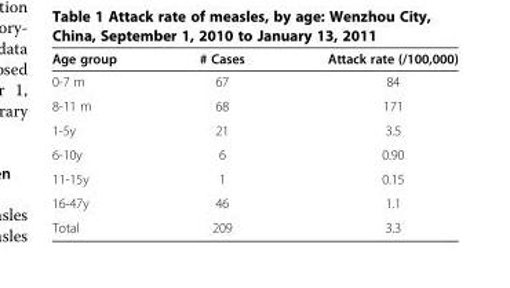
<table><thead><tr><td>Age group</td><td># Cases</td><td>Attack rate (/100,000)</td></tr></thead><tbody><tr><td>0-7 m</td><td>67</td><td>84</td></tr><tr><td>8-11 m</td><td>68</td><td>171</td></tr><tr><td>1-5y</td><td>21</td><td>3.5</td></tr><tr><td>6-10y</td><td>6</td><td>0.90</td></tr><tr><td>11-15y</td><td>1</td><td>0.15</td></tr><tr><td>16-47y</td><td>46</td><td>1.1</td></tr><tr><td>Total</td><td>209</td><td>3.3</td></tr></tbody></table>